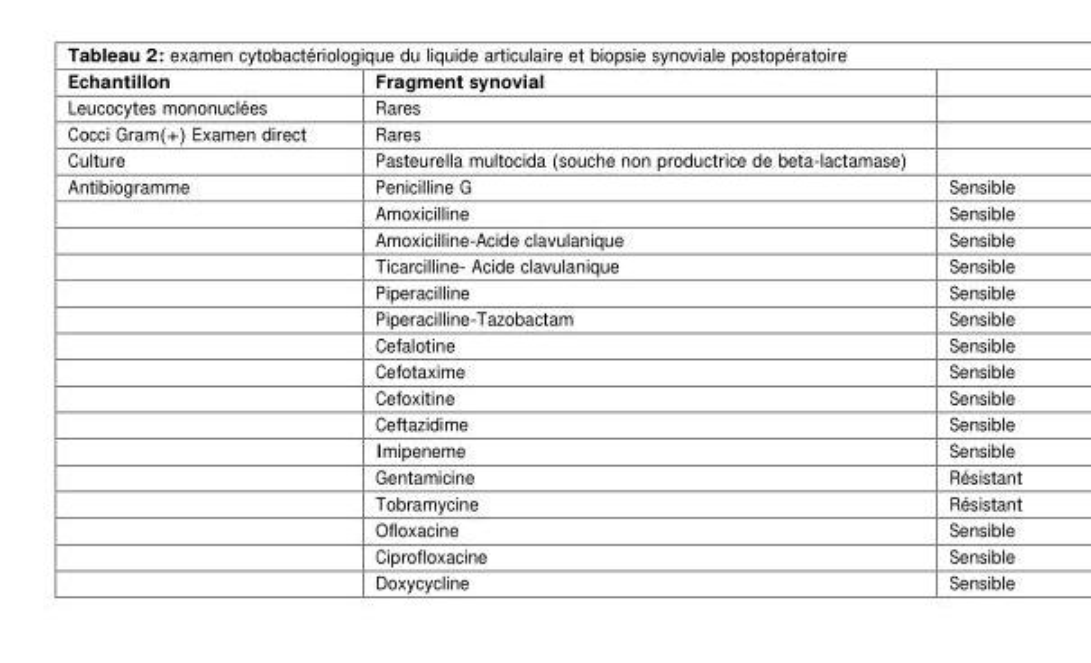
<table><thead><tr><td>Echantillon</td><td>Fragment synovial</td><td></td></tr></thead><tbody><tr><td>Leucocytes mononuclées</td><td>Rares</td><td></td></tr><tr><td>Cocci Gram(+) Examen direct</td><td>Rares</td><td></td></tr><tr><td>Culture</td><td>Pasteurella multocida (souche non productrice de beta-lactamase)</td><td></td></tr><tr><td rowspan="16">Antibiogramme</td><td>Penicilline G</td><td>Sensible</td></tr><tr><td>Amoxicilline</td><td>Sensible</td></tr><tr><td>Amoxicilline-Acide clavulanique</td><td>Sensible</td></tr><tr><td>Ticarcilline- Acide clavulanique</td><td>Sensible</td></tr><tr><td>Piperacilline</td><td>Sensible</td></tr><tr><td>Piperacilline-Tazobactam</td><td>Sensible</td></tr><tr><td>Cefalotine</td><td>Sensible</td></tr><tr><td>Cefotaxime</td><td>Sensible</td></tr><tr><td>Cefoxitine</td><td>Sensible</td></tr><tr><td>Ceftazidime</td><td>Sensible</td></tr><tr><td>Imipeneme</td><td>Sensible</td></tr><tr><td>Gentamicine</td><td>Résistant</td></tr><tr><td>Tobramycine</td><td>Résistant</td></tr><tr><td>Ofloxacine</td><td>Sensible</td></tr><tr><td>Ciprofloxacine</td><td>Sensible</td></tr><tr><td>Doxycycline</td><td>Sensible</td></tr></tbody></table>